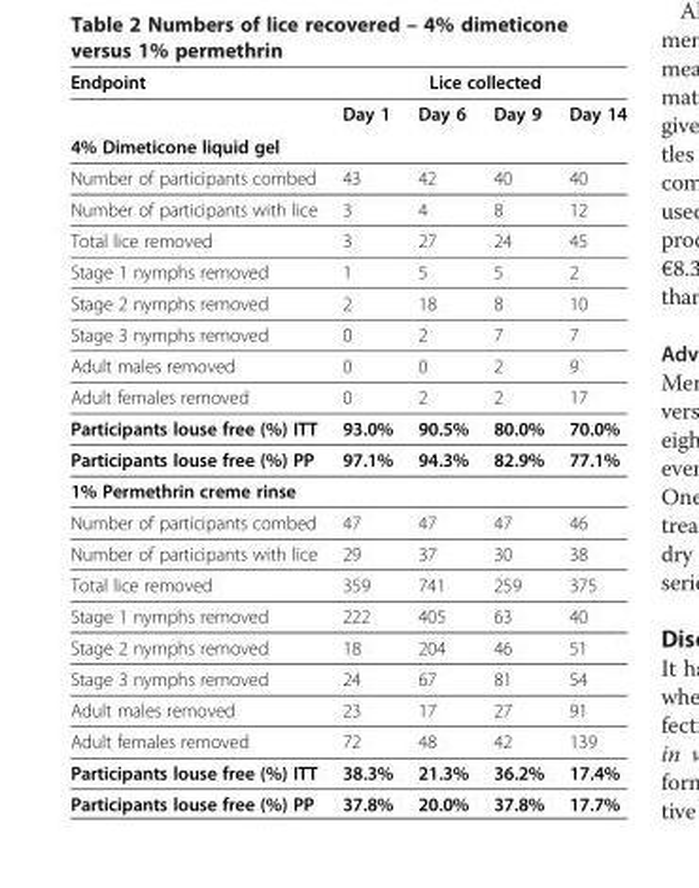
<table><thead><tr><td rowspan="2">Endpoint</td><td colspan="4">Lice collected</td></tr><tr><td>Day 1</td><td>Day 6</td><td>Day 9</td><td>Day 14</td></tr></thead><tbody><tr><td colspan="5">4% Dimeticone liquid gel</td></tr><tr><td>Number of participants combed</td><td>43</td><td>42</td><td>40</td><td>40</td></tr><tr><td>Number of participants with lice</td><td>3</td><td>4</td><td>8</td><td>12</td></tr><tr><td>Total lice removed</td><td>3</td><td>27</td><td>24</td><td>45</td></tr><tr><td>Stage 1 nymphs removed</td><td>1</td><td>5</td><td>5</td><td>2</td></tr><tr><td>Stage 2 nymphs removed</td><td>2</td><td>18</td><td>8</td><td>10</td></tr><tr><td>Stage 3 nymphs removed</td><td>0</td><td>2</td><td>7</td><td>7</td></tr><tr><td>Adult males removed</td><td>0</td><td>0</td><td>2</td><td>9</td></tr><tr><td>Adult females removed</td><td>0</td><td>2</td><td>2</td><td>17</td></tr><tr><td>Participants louse free (%) ITT</td><td>93.0%</td><td>90.5%</td><td>80.0%</td><td>70.0%</td></tr><tr><td>Participants louse free (%) PP</td><td>97.1%</td><td>94.3%</td><td>82.9%</td><td>77.1%</td></tr><tr><td colspan="5">1% Permethrin creme rinse</td></tr><tr><td>Number of participants combed</td><td>47</td><td>47</td><td>47</td><td>46</td></tr><tr><td>Number of participants with lice</td><td>29</td><td>37</td><td>30</td><td>38</td></tr><tr><td>Total lice removed</td><td>359</td><td>741</td><td>259</td><td>375</td></tr><tr><td>Stage 1 nymphs removed</td><td>222</td><td>405</td><td>63</td><td>40</td></tr><tr><td>Stage 2 nymphs removed</td><td>18</td><td>204</td><td>46</td><td>51</td></tr><tr><td>Stage 3 nymphs removed</td><td>24</td><td>67</td><td>81</td><td>54</td></tr><tr><td>Adult males removed</td><td>23</td><td>17</td><td>27</td><td>91</td></tr><tr><td>Adult females removed</td><td>72</td><td>48</td><td>42</td><td>139</td></tr><tr><td>Participants louse free (%) ITT</td><td>38.3%</td><td>21.3%</td><td>36.2%</td><td>17.4%</td></tr><tr><td>Participants louse free (%) PP</td><td>37.8%</td><td>20.0%</td><td>37.8%</td><td>17.7%</td></tr></tbody></table>